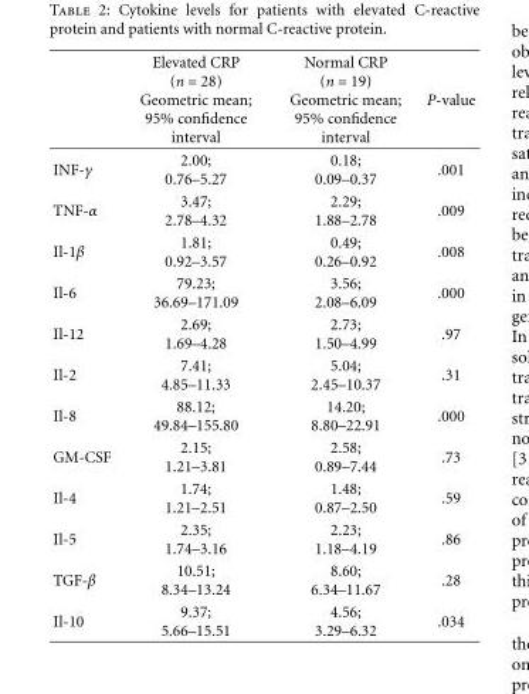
<table><thead><tr><td></td><td>Elevated CRP (n = 28) Geometric mean; 95% confidence interval</td><td>Normal CRP (n = 19) Geometric mean; 95% confidence interval</td><td>P-value</td></tr></thead><tbody><tr><td>INF-γ</td><td>2.00; 0.76–5.27</td><td>0.18; 0.09–0.37</td><td>.001</td></tr><tr><td>TNF-α</td><td>3.47; 2.78–4.32</td><td>2.29; 1.88–2.78</td><td>.009</td></tr><tr><td>Il-1β</td><td>1.81; 0.92–3.57</td><td>0.49; 0.26–0.92</td><td>.008</td></tr><tr><td>Il-6</td><td>79.23; 36.69–171.09</td><td>3.56; 2.08–6.09</td><td>.000</td></tr><tr><td>Il-12</td><td>2.69; 1.69–4.28</td><td>2.73; 1.50–4.99</td><td>.97</td></tr><tr><td>Il-2</td><td>7.41; 4.85–11.33</td><td>5.04; 2.45–10.37</td><td>.31</td></tr><tr><td>Il-8</td><td>88.12; 49.84–155.80</td><td>14.20; 8.80–22.91</td><td>.000</td></tr><tr><td>GM-CSF</td><td>2.15; 1.21–3.81</td><td>2.58; 0.89–7.44</td><td>.73</td></tr><tr><td>Il-4</td><td>1.74; 1.21–2.51</td><td>1.48; 0.87–2.50</td><td>.59</td></tr><tr><td>Il-5</td><td>2.35; 1.74–3.16</td><td>2.23; 1.18–4.19</td><td>.86</td></tr><tr><td>TGF-β</td><td>10.51; 8.34–13.24</td><td>8.60; 6.34–11.67</td><td>.28</td></tr><tr><td>Il-10</td><td>9.37; 5.66–15.51</td><td>4.56; 3.29–6.32</td><td>.034</td></tr></tbody></table>